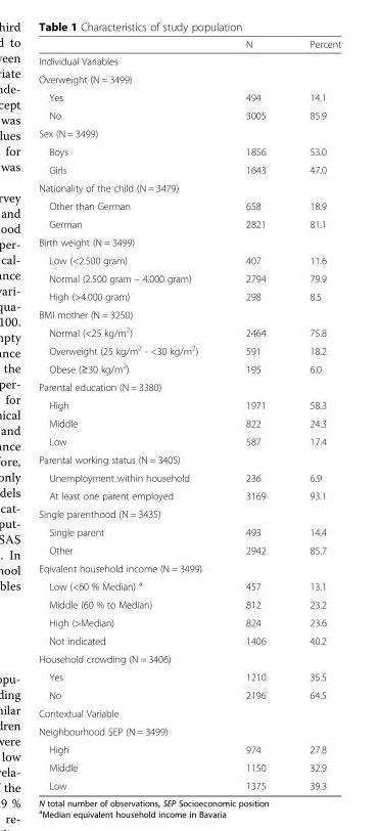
<table><thead><tr><td></td><td>N</td><td>Percent</td></tr></thead><tbody><tr><td colspan="3">Individual Variables</td></tr><tr><td colspan="3">Overweight (N = 3499)</td></tr><tr><td>Yes</td><td>494</td><td>14.1</td></tr><tr><td>No</td><td>3005</td><td>85.9</td></tr><tr><td colspan="3">Sex (N = 3499)</td></tr><tr><td>Boys</td><td>1856</td><td>53.0</td></tr><tr><td>Girls</td><td>1643</td><td>47.0</td></tr><tr><td colspan="3">Nationality of the child (N = 3479)</td></tr><tr><td>Other than German</td><td>658</td><td>18.9</td></tr><tr><td>German</td><td>2821</td><td>81.1</td></tr><tr><td colspan="3">Birth weight (N = 3499)</td></tr><tr><td>Low (&lt;2.500 gram)</td><td>407</td><td>11.6</td></tr><tr><td>Normal (2.500 gram – 4.000 gram)</td><td>2794</td><td>79.9</td></tr><tr><td>High (&gt;4.000 gram)</td><td>298</td><td>8.5</td></tr><tr><td colspan="3">BMI mother (N = 3250)</td></tr><tr><td>Normal (&lt;25 kg/m<sup>2</sup>)</td><td>2464</td><td>75.8</td></tr><tr><td>Overweight (25 kg/m<sup>2</sup> - &lt;30 kg/m<sup>2</sup>)</td><td>591</td><td>18.2</td></tr><tr><td>Obese (≥30 kg/m<sup>2</sup>)</td><td>195</td><td>6.0</td></tr><tr><td colspan="3">Parental education (N = 3380)</td></tr><tr><td>High</td><td>1971</td><td>58.3</td></tr><tr><td>Middle</td><td>822</td><td>24.3</td></tr><tr><td>Low</td><td>587</td><td>17.4</td></tr><tr><td colspan="3">Parental working status (N = 3405)</td></tr><tr><td>Unemployment within household</td><td>236</td><td>6.9</td></tr><tr><td>At least one parent employed</td><td>3169</td><td>93.1</td></tr><tr><td colspan="3">Single parenthood (N = 3435)</td></tr><tr><td>Single parent</td><td>493</td><td>14.4</td></tr><tr><td>Other</td><td>2942</td><td>85.7</td></tr><tr><td colspan="3">Eqivalent household income (N = 3499)</td></tr><tr><td>Low (&lt;60 % Median) <sup>a</sup></td><td>457</td><td>13.1</td></tr><tr><td>Middle (60 % to Median)</td><td>812</td><td>23.2</td></tr><tr><td>High (&gt;Median)</td><td>824</td><td>23.6</td></tr><tr><td>Not indicated</td><td>1406</td><td>40.2</td></tr><tr><td colspan="3">Household crowding (N = 3406)</td></tr><tr><td>Yes</td><td>1210</td><td>35.5</td></tr><tr><td>No</td><td>2196</td><td>64.5</td></tr><tr><td colspan="3">Contextual Variable</td></tr><tr><td colspan="3">Neighbourhood SEP (N = 3499)</td></tr><tr><td>High</td><td>974</td><td>27.8</td></tr><tr><td>Middle</td><td>1150</td><td>32.9</td></tr><tr><td>Low</td><td>1375</td><td>39.3</td></tr></tbody></table>